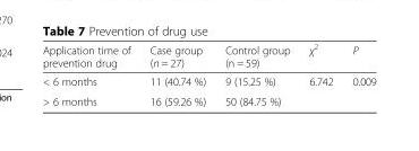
<table><thead><tr><td>Application time of prevention drug</td><td>Case group (n = 27)</td><td>Control group (n = 59)</td><td>χ<sup>2</sup></td><td>P</td></tr></thead><tbody><tr><td>&lt; 6 months</td><td>11 (40.74 %)</td><td>9 (15.25 %)</td><td rowspan="2">6.742</td><td rowspan="2">0.009</td></tr><tr><td>&gt; 6 months</td><td>16 (59.26 %)</td><td>50 (84.75 %)</td></tr></tbody></table>